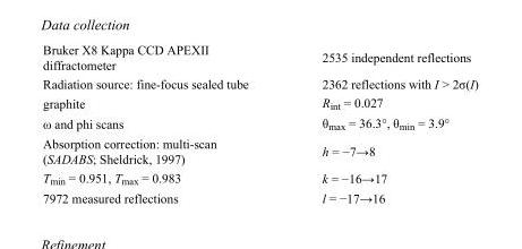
<table><tbody><tr><td>Bruker X8 Kappa CCD APEXII diffractometer</td><td>2535 independent reflections</td></tr><tr><td>Radiation source: fine-focus sealed tube</td><td>2362 reflections with I &gt; 2σ(I)</td></tr><tr><td>graphite</td><td>R<sub>int</sub> = 0.027</td></tr><tr><td>ω and phi scans</td><td>θ<sub>max</sub> = 36.3°, θ<sub>min</sub> = 3.9°</td></tr><tr><td>Absorption correction: multi-scan (SADABS; Sheldrick, 1997)</td><td>h = −7→8</td></tr><tr><td>T<sub>min</sub> = 0.951, T<sub>max</sub> = 0.983</td><td>k = −16→17</td></tr><tr><td>7972 measured reflections</td><td>l = −17→16</td></tr></tbody></table>